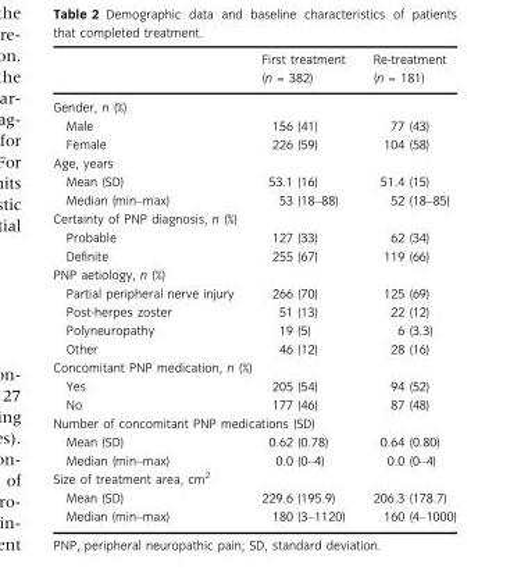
<table><thead><tr><td></td><td>First treatment (n = 382)</td><td>Re-treatment (n = 181)</td></tr></thead><tbody><tr><td colspan="3">Gender, n (%)</td></tr><tr><td>Male</td><td>156 (41)</td><td>77 (43)</td></tr><tr><td>Female</td><td>226 (59)</td><td>104 (58)</td></tr><tr><td colspan="3">Age, years</td></tr><tr><td>Mean (SD)</td><td>53.1 (16)</td><td>51.4 (15)</td></tr><tr><td>Median (min–max)</td><td>53 (18–88)</td><td>52 (18–85)</td></tr><tr><td colspan="3">Certainty of PNP diagnosis, n (%)</td></tr><tr><td>Probable</td><td>127 (33)</td><td>62 (34)</td></tr><tr><td>Definite</td><td>255 (67)</td><td>119 (66)</td></tr><tr><td colspan="3">PNP aetiology, n (%)</td></tr><tr><td>Partial peripheral nerve injury</td><td>266 (70)</td><td>125 (69)</td></tr><tr><td>Post-herpes zoster</td><td>51 (13)</td><td>22 (12)</td></tr><tr><td>Polyneuropathy</td><td>19 (5)</td><td>6 (3.3)</td></tr><tr><td>Other</td><td>46 (12)</td><td>28 (16)</td></tr><tr><td colspan="3">Concomitant PNP medication, n (%)</td></tr><tr><td>Yes</td><td>205 (54)</td><td>94 (52)</td></tr><tr><td>No</td><td>177 (46)</td><td>87 (48)</td></tr><tr><td colspan="3">Number of concomitant PNP medications (SD)</td></tr><tr><td>Mean (SD)</td><td>0.62 (0.78)</td><td>0.64 (0.80)</td></tr><tr><td>Median (min–max)</td><td>0.0 (0–4)</td><td>0.0 (0–4)</td></tr><tr><td colspan="3">Size of treatment area, cm<sup>2</sup></td></tr><tr><td>Mean (SD)</td><td>229.6 (195.9)</td><td>206.3 (178.7)</td></tr><tr><td>Median (min–max)</td><td>180 (3–1120)</td><td>160 (4–1000)</td></tr></tbody></table>